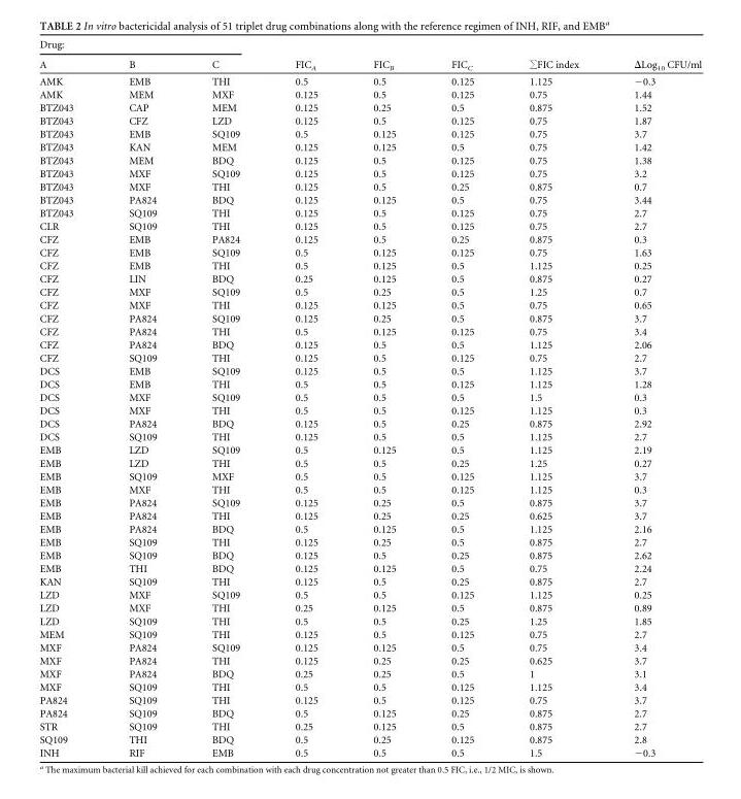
<table><thead><tr><td colspan="3">Drug:</td><td rowspan="2">FIC<sub>A</sub></td><td rowspan="2">FIC<sub>B</sub></td><td rowspan="2">FIC<sub>C</sub></td><td rowspan="2">∑FIC index</td><td rowspan="2">ΔLog<sub>10</sub> CFU/ml</td></tr><tr><td>A</td><td>B</td><td>C</td></tr></thead><tbody><tr><td>AMK</td><td>EMB</td><td>THI</td><td>0.5</td><td>0.5</td><td>0.125</td><td>1.125</td><td>−0.3</td></tr><tr><td>AMK</td><td>MEM</td><td>MXF</td><td>0.125</td><td>0.5</td><td>0.125</td><td>0.75</td><td>1.44</td></tr><tr><td>BTZ043</td><td>CAP</td><td>MEM</td><td>0.125</td><td>0.25</td><td>0.5</td><td>0.875</td><td>1.52</td></tr><tr><td>BTZ043</td><td>CFZ</td><td>LZD</td><td>0.125</td><td>0.5</td><td>0.125</td><td>0.75</td><td>1.87</td></tr><tr><td>BTZ043</td><td>EMB</td><td>SQ109</td><td>0.5</td><td>0.125</td><td>0.125</td><td>0.75</td><td>3.7</td></tr><tr><td>BTZ043</td><td>KAN</td><td>MEM</td><td>0.125</td><td>0.125</td><td>0.5</td><td>0.75</td><td>1.42</td></tr><tr><td>BTZ043</td><td>MEM</td><td>BDQ</td><td>0.125</td><td>0.5</td><td>0.125</td><td>0.75</td><td>1.38</td></tr><tr><td>BTZ043</td><td>MXF</td><td>SQ109</td><td>0.125</td><td>0.5</td><td>0.125</td><td>0.75</td><td>3.2</td></tr><tr><td>BTZ043</td><td>MXF</td><td>THI</td><td>0.125</td><td>0.5</td><td>0.25</td><td>0.875</td><td>0.7</td></tr><tr><td>BTZ043</td><td>PA824</td><td>BDQ</td><td>0.125</td><td>0.125</td><td>0.5</td><td>0.75</td><td>3.44</td></tr><tr><td>BTZ043</td><td>SQ109</td><td>THI</td><td>0.125</td><td>0.5</td><td>0.125</td><td>0.75</td><td>2.7</td></tr><tr><td>CLR</td><td>SQ109</td><td>THI</td><td>0.125</td><td>0.5</td><td>0.125</td><td>0.75</td><td>2.7</td></tr><tr><td>CFZ</td><td>EMB</td><td>PA824</td><td>0.125</td><td>0.5</td><td>0.25</td><td>0.875</td><td>0.3</td></tr><tr><td>CFZ</td><td>EMB</td><td>SQ109</td><td>0.5</td><td>0.125</td><td>0.125</td><td>0.75</td><td>1.63</td></tr><tr><td>CFZ</td><td>EMB</td><td>THI</td><td>0.5</td><td>0.125</td><td>0.5</td><td>1.125</td><td>0.25</td></tr><tr><td>CFZ</td><td>LIN</td><td>BDQ</td><td>0.25</td><td>0.125</td><td>0.5</td><td>0.875</td><td>0.27</td></tr><tr><td>CFZ</td><td>MXF</td><td>SQ109</td><td>0.5</td><td>0.25</td><td>0.5</td><td>1.25</td><td>0.7</td></tr><tr><td>CFZ</td><td>MXF</td><td>THI</td><td>0.125</td><td>0.125</td><td>0.5</td><td>0.75</td><td>0.65</td></tr><tr><td>CFZ</td><td>PA824</td><td>SQ109</td><td>0.125</td><td>0.25</td><td>0.5</td><td>0.875</td><td>3.7</td></tr><tr><td>CFZ</td><td>PA824</td><td>THI</td><td>0.5</td><td>0.125</td><td>0.125</td><td>0.75</td><td>3.4</td></tr><tr><td>CFZ</td><td>PA824</td><td>BDQ</td><td>0.125</td><td>0.5</td><td>0.5</td><td>1.125</td><td>2.06</td></tr><tr><td>CFZ</td><td>SQ109</td><td>THI</td><td>0.125</td><td>0.5</td><td>0.125</td><td>0.75</td><td>2.7</td></tr><tr><td>DCS</td><td>EMB</td><td>SQ109</td><td>0.125</td><td>0.5</td><td>0.5</td><td>1.125</td><td>3.7</td></tr><tr><td>DCS</td><td>EMB</td><td>THI</td><td>0.5</td><td>0.5</td><td>0.125</td><td>1.125</td><td>1.28</td></tr><tr><td>DCS</td><td>MXF</td><td>SQ109</td><td>0.5</td><td>0.5</td><td>0.5</td><td>1.5</td><td>0.3</td></tr><tr><td>DCS</td><td>MXF</td><td>THI</td><td>0.5</td><td>0.5</td><td>0.125</td><td>1.125</td><td>0.3</td></tr><tr><td>DCS</td><td>PA824</td><td>BDQ</td><td>0.125</td><td>0.5</td><td>0.25</td><td>0.875</td><td>2.92</td></tr><tr><td>DCS</td><td>SQ109</td><td>THI</td><td>0.125</td><td>0.5</td><td>0.5</td><td>1.125</td><td>2.7</td></tr><tr><td>EMB</td><td>LZD</td><td>SQ109</td><td>0.5</td><td>0.125</td><td>0.5</td><td>1.125</td><td>2.19</td></tr><tr><td>EMB</td><td>LZD</td><td>THI</td><td>0.5</td><td>0.5</td><td>0.25</td><td>1.25</td><td>0.27</td></tr><tr><td>EMB</td><td>SQ109</td><td>MXF</td><td>0.5</td><td>0.5</td><td>0.125</td><td>1.125</td><td>3.7</td></tr><tr><td>EMB</td><td>MXF</td><td>THI</td><td>0.5</td><td>0.5</td><td>0.125</td><td>1.125</td><td>0.3</td></tr><tr><td>EMB</td><td>PA824</td><td>SQ109</td><td>0.125</td><td>0.25</td><td>0.5</td><td>0.875</td><td>3.7</td></tr><tr><td>EMB</td><td>PA824</td><td>THI</td><td>0.125</td><td>0.25</td><td>0.25</td><td>0.625</td><td>3.7</td></tr><tr><td>EMB</td><td>PA824</td><td>BDQ</td><td>0.5</td><td>0.125</td><td>0.5</td><td>1.125</td><td>2.16</td></tr><tr><td>EMB</td><td>SQ109</td><td>THI</td><td>0.125</td><td>0.25</td><td>0.5</td><td>0.875</td><td>2.7</td></tr><tr><td>EMB</td><td>SQ109</td><td>BDQ</td><td>0.125</td><td>0.5</td><td>0.25</td><td>0.875</td><td>2.62</td></tr><tr><td>EMB</td><td>THI</td><td>BDQ</td><td>0.125</td><td>0.125</td><td>0.5</td><td>0.75</td><td>2.24</td></tr><tr><td>KAN</td><td>SQ109</td><td>THI</td><td>0.125</td><td>0.5</td><td>0.25</td><td>0.875</td><td>2.7</td></tr><tr><td>LZD</td><td>MXF</td><td>SQ109</td><td>0.5</td><td>0.5</td><td>0.125</td><td>1.125</td><td>0.25</td></tr><tr><td>LZD</td><td>MXF</td><td>THI</td><td>0.25</td><td>0.125</td><td>0.5</td><td>0.875</td><td>0.89</td></tr><tr><td>LZD</td><td>SQ109</td><td>THI</td><td>0.5</td><td>0.5</td><td>0.25</td><td>1.25</td><td>1.85</td></tr><tr><td>MEM</td><td>SQ109</td><td>THI</td><td>0.125</td><td>0.5</td><td>0.125</td><td>0.75</td><td>2.7</td></tr><tr><td>MXF</td><td>PA824</td><td>SQ109</td><td>0.125</td><td>0.125</td><td>0.5</td><td>0.75</td><td>3.4</td></tr><tr><td>MXF</td><td>PA824</td><td>THI</td><td>0.125</td><td>0.25</td><td>0.25</td><td>0.625</td><td>3.7</td></tr><tr><td>MXF</td><td>PA824</td><td>BDQ</td><td>0.25</td><td>0.25</td><td>0.5</td><td>1</td><td>3.1</td></tr><tr><td>MXF</td><td>SQ109</td><td>THI</td><td>0.5</td><td>0.5</td><td>0.125</td><td>1.125</td><td>3.4</td></tr><tr><td>PA824</td><td>SQ109</td><td>THI</td><td>0.125</td><td>0.5</td><td>0.125</td><td>0.75</td><td>3.7</td></tr><tr><td>PA824</td><td>SQ109</td><td>BDQ</td><td>0.5</td><td>0.125</td><td>0.25</td><td>0.875</td><td>2.7</td></tr><tr><td>STR</td><td>SQ109</td><td>THI</td><td>0.25</td><td>0.125</td><td>0.5</td><td>0.875</td><td>2.7</td></tr><tr><td>SQ109</td><td>THI</td><td>BDQ</td><td>0.5</td><td>0.25</td><td>0.125</td><td>0.875</td><td>2.8</td></tr><tr><td>INH</td><td>RIF</td><td>EMB</td><td>0.5</td><td>0.5</td><td>0.5</td><td>1.5</td><td>−0.3</td></tr></tbody></table>